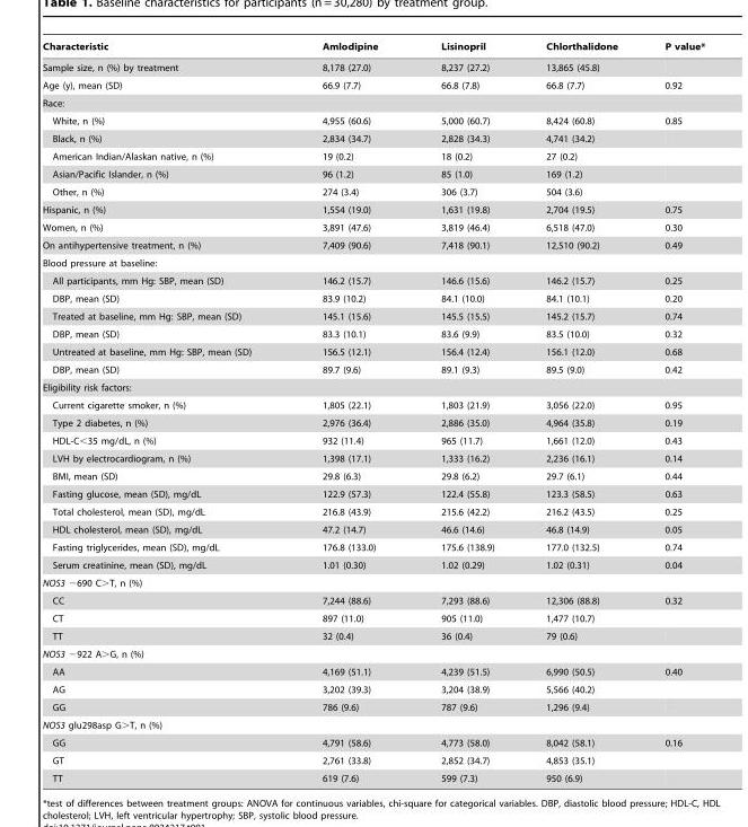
<table><thead><tr><td>Characteristic</td><td>Amlodipine</td><td>Lisinopril</td><td>Chlorthalidone</td><td>P value*</td></tr></thead><tbody><tr><td>Sample size, n (%) by treatment</td><td>8,178 (27.0)</td><td>8,237 (27.2)</td><td>13,865 (45.8)</td><td></td></tr><tr><td>Age (y), mean (SD)</td><td>66.9 (7.7)</td><td>66.8 (7.8)</td><td>66.8 (7.7)</td><td>0.92</td></tr><tr><td colspan="5">Race:</td></tr><tr><td>White, n (%)</td><td>4,955 (60.6)</td><td>5,000 (60.7)</td><td>8,424 (60.8)</td><td>0.85</td></tr><tr><td>Black, n (%)</td><td>2,834 (34.7)</td><td>2,828 (34.3)</td><td>4,741 (34.2)</td><td></td></tr><tr><td>American Indian/Alaskan native, n (%)</td><td>19 (0.2)</td><td>18 (0.2)</td><td>27 (0.2)</td><td></td></tr><tr><td>Asian/Pacific Islander, n (%)</td><td>96 (1.2)</td><td>85 (1.0)</td><td>169 (1.2)</td><td></td></tr><tr><td>Other, n (%)</td><td>274 (3.4)</td><td>306 (3.7)</td><td>504 (3.6)</td><td></td></tr><tr><td>Hispanic, n (%)</td><td>1,554 (19.0)</td><td>1,631 (19.8)</td><td>2,704 (19.5)</td><td>0.75</td></tr><tr><td>Women, n (%)</td><td>3,891 (47.6)</td><td>3,819 (46.4)</td><td>6,518 (47.0)</td><td>0.30</td></tr><tr><td>On antihypertensive treatment, n (%)</td><td>7,409 (90.6)</td><td>7,418 (90.1)</td><td>12,510 (90.2)</td><td>0.49</td></tr><tr><td colspan="5">Blood pressure at baseline:</td></tr><tr><td>All participants, mm Hg: SBP, mean (SD)</td><td>146.2 (15.7)</td><td>146.6 (15.6)</td><td>146.2 (15.7)</td><td>0.25</td></tr><tr><td>DBP, mean (SD)</td><td>83.9 (10.2)</td><td>84.1 (10.0)</td><td>84.1 (10.1)</td><td>0.20</td></tr><tr><td>Treated at baseline, mm Hg: SBP, mean (SD)</td><td>145.1 (15.6)</td><td>145.5 (15.5)</td><td>145.2 (15.7)</td><td>0.74</td></tr><tr><td>DBP, mean (SD)</td><td>83.3 (10.1)</td><td>83.6 (9.9)</td><td>83.5 (10.0)</td><td>0.32</td></tr><tr><td>Untreated at baseline, mm Hg: SBP, mean (SD)</td><td>156.5 (12.1)</td><td>156.4 (12.4)</td><td>156.1 (12.0)</td><td>0.68</td></tr><tr><td>DBP, mean (SD)</td><td>89.7 (9.6)</td><td>89.1 (9.3)</td><td>89.5 (9.0)</td><td>0.42</td></tr><tr><td colspan="5">Eligibility risk factors:</td></tr><tr><td>Current cigarette smoker, n (%)</td><td>1,805 (22.1)</td><td>1,803 (21.9)</td><td>3,056 (22.0)</td><td>0.95</td></tr><tr><td>Type 2 diabetes, n (%)</td><td>2,976 (36.4)</td><td>2,886 (35.0)</td><td>4,964 (35.8)</td><td>0.19</td></tr><tr><td>HDL-C&lt;35 mg/dL, n (%)</td><td>932 (11.4)</td><td>965 (11.7)</td><td>1,661 (12.0)</td><td>0.43</td></tr><tr><td>LVH by electrocardiogram, n (%)</td><td>1,398 (17.1)</td><td>1,333 (16.2)</td><td>2,236 (16.1)</td><td>0.14</td></tr><tr><td>BMI, mean (SD)</td><td>29.8 (6.3)</td><td>29.8 (6.2)</td><td>29.7 (6.1)</td><td>0.44</td></tr><tr><td>Fasting glucose, mean (SD), mg/dL</td><td>122.9 (57.3)</td><td>122.4 (55.8)</td><td>123.3 (58.5)</td><td>0.63</td></tr><tr><td>Total cholesterol, mean (SD), mg/dL</td><td>216.8 (43.9)</td><td>215.6 (42.2)</td><td>216.2 (43.5)</td><td>0.25</td></tr><tr><td>HDL cholesterol, mean (SD), mg/dL</td><td>47.2 (14.7)</td><td>46.6 (14.6)</td><td>46.8 (14.9)</td><td>0.05</td></tr><tr><td>Fasting triglycerides, mean (SD), mg/dL</td><td>176.8 (133.0)</td><td>175.6 (138.9)</td><td>177.0 (132.5)</td><td>0.74</td></tr><tr><td>Serum creatinine, mean (SD), mg/dL</td><td>1.01 (0.30)</td><td>1.02 (0.29)</td><td>1.02 (0.31)</td><td>0.04</td></tr><tr><td colspan="5">NOS3 −690 C&gt;T, n (%)</td></tr><tr><td>CC</td><td>7,244 (88.6)</td><td>7,293 (88.6)</td><td>12,306 (88.8)</td><td>0.32</td></tr><tr><td>CT</td><td>897 (11.0)</td><td>905 (11.0)</td><td>1,477 (10.7)</td><td></td></tr><tr><td>TT</td><td>32 (0.4)</td><td>36 (0.4)</td><td>79 (0.6)</td><td></td></tr><tr><td colspan="5">NOS3 −922 A&gt;G, n (%)</td></tr><tr><td>AA</td><td>4,169 (51.1)</td><td>4,239 (51.5)</td><td>6,990 (50.5)</td><td>0.40</td></tr><tr><td>AG</td><td>3,202 (39.3)</td><td>3,204 (38.9)</td><td>5,566 (40.2)</td><td></td></tr><tr><td>GG</td><td>786 (9.6)</td><td>787 (9.6)</td><td>1,296 (9.4)</td><td></td></tr><tr><td colspan="5">NOS3 glu298asp G&gt;T, n (%)</td></tr><tr><td>GG</td><td>4,791 (58.6)</td><td>4,773 (58.0)</td><td>8,042 (58.1)</td><td>0.16</td></tr><tr><td>GT</td><td>2,761 (33.8)</td><td>2,852 (34.7)</td><td>4,853 (35.1)</td><td></td></tr><tr><td>TT</td><td>619 (7.6)</td><td>599 (7.3)</td><td>950 (6.9)</td><td></td></tr></tbody></table>